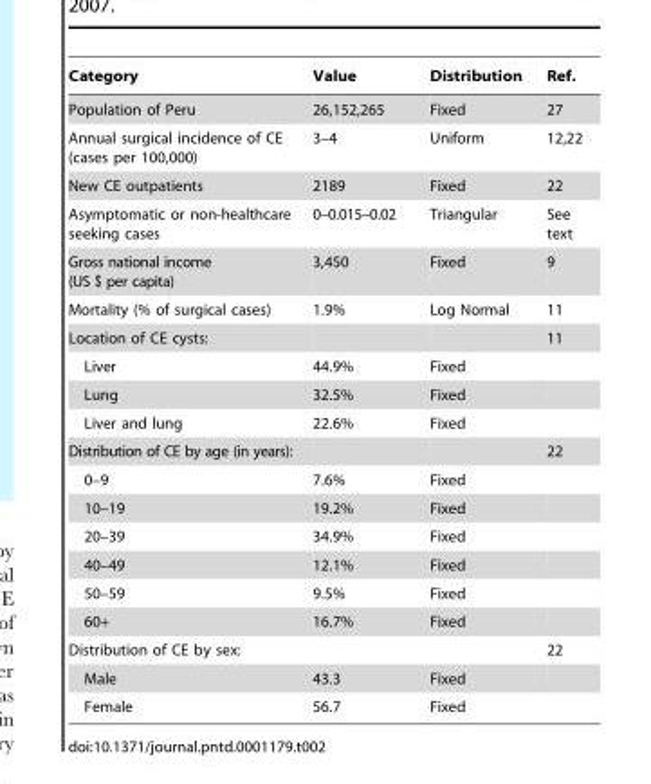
<table><thead><tr><td>Category</td><td>Value</td><td>Distribution</td><td>Ref.</td></tr></thead><tbody><tr><td>Population of Peru</td><td>26,152,265</td><td>Fixed</td><td>27</td></tr><tr><td>Annual surgical incidence of CE (cases per 100,000)</td><td>3–4</td><td>Uniform</td><td>12,22</td></tr><tr><td>New CE outpatients</td><td>2189</td><td>Fixed</td><td>22</td></tr><tr><td>Asymptomatic or non-healthcare seeking cases</td><td>0–0.015–0.02</td><td>Triangular</td><td>See text</td></tr><tr><td>Gross national income (US $ per capita)</td><td>3,450</td><td>Fixed</td><td>9</td></tr><tr><td>Mortality (% of surgical cases)</td><td>1.9%</td><td>Log Normal</td><td>11</td></tr><tr><td>Location of CE cysts:</td><td></td><td></td><td>11</td></tr><tr><td>Liver</td><td>44.9%</td><td>Fixed</td><td></td></tr><tr><td>Lung</td><td>32.5%</td><td>Fixed</td><td></td></tr><tr><td>Liver and lung</td><td>22.6%</td><td>Fixed</td><td></td></tr><tr><td>Distribution of CE by age (in years):</td><td></td><td></td><td>22</td></tr><tr><td>0–9</td><td>7.6%</td><td>Fixed</td><td></td></tr><tr><td>10–19</td><td>19.2%</td><td>Fixed</td><td></td></tr><tr><td>20–39</td><td>34.9%</td><td>Fixed</td><td></td></tr><tr><td>40–49</td><td>12.1%</td><td>Fixed</td><td></td></tr><tr><td>50–59</td><td>9.5%</td><td>Fixed</td><td></td></tr><tr><td>60+</td><td>16.7%</td><td>Fixed</td><td></td></tr><tr><td>Distribution of CE by sex:</td><td></td><td></td><td>22</td></tr><tr><td>Male</td><td>43.3</td><td>Fixed</td><td></td></tr><tr><td>Female</td><td>56.7</td><td>Fixed</td><td></td></tr></tbody></table>